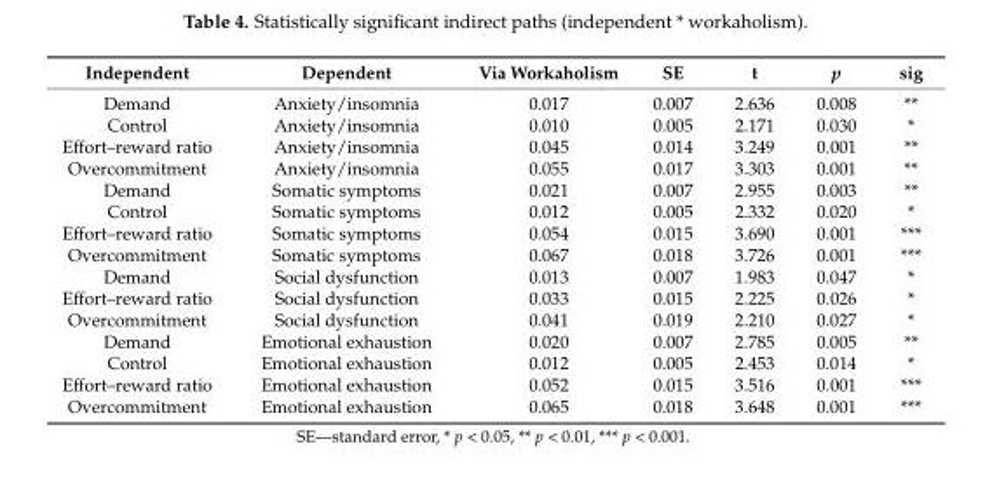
<table><thead><tr><td>Independent</td><td>Dependent</td><td>Via Workaholism</td><td>SE</td><td>t</td><td>p</td><td>sig</td></tr></thead><tbody><tr><td>Demand</td><td>Anxiety/insomnia</td><td>0.017</td><td>0.007</td><td>2.636</td><td>0.008</td><td>**</td></tr><tr><td>Control</td><td>Anxiety/insomnia</td><td>0.010</td><td>0.005</td><td>2.171</td><td>0.030</td><td>*</td></tr><tr><td>Effort–reward ratio</td><td>Anxiety/insomnia</td><td>0.045</td><td>0.014</td><td>3.249</td><td>0.001</td><td>**</td></tr><tr><td>Overcommitment</td><td>Anxiety/insomnia</td><td>0.055</td><td>0.017</td><td>3.303</td><td>0.001</td><td>**</td></tr><tr><td>Demand</td><td>Somatic symptoms</td><td>0.021</td><td>0.007</td><td>2.955</td><td>0.003</td><td>**</td></tr><tr><td>Control</td><td>Somatic symptoms</td><td>0.012</td><td>0.005</td><td>2.332</td><td>0.020</td><td>*</td></tr><tr><td>Effort–reward ratio</td><td>Somatic symptoms</td><td>0.054</td><td>0.015</td><td>3.690</td><td>0.001</td><td>***</td></tr><tr><td>Overcommitment</td><td>Somatic symptoms</td><td>0.067</td><td>0.018</td><td>3.726</td><td>0.001</td><td>***</td></tr><tr><td>Demand</td><td>Social dysfunction</td><td>0.013</td><td>0.007</td><td>1.983</td><td>0.047</td><td>*</td></tr><tr><td>Effort–reward ratio</td><td>Social dysfunction</td><td>0.033</td><td>0.015</td><td>2.225</td><td>0.026</td><td>*</td></tr><tr><td>Overcommitment</td><td>Social dysfunction</td><td>0.041</td><td>0.019</td><td>2.210</td><td>0.027</td><td>*</td></tr><tr><td>Demand</td><td>Emotional exhaustion</td><td>0.020</td><td>0.007</td><td>2.785</td><td>0.005</td><td>**</td></tr><tr><td>Control</td><td>Emotional exhaustion</td><td>0.012</td><td>0.005</td><td>2.453</td><td>0.014</td><td>*</td></tr><tr><td>Effort–reward ratio</td><td>Emotional exhaustion</td><td>0.052</td><td>0.015</td><td>3.516</td><td>0.001</td><td>***</td></tr><tr><td>Overcommitment</td><td>Emotional exhaustion</td><td>0.065</td><td>0.018</td><td>3.648</td><td>0.001</td><td>***</td></tr></tbody></table>